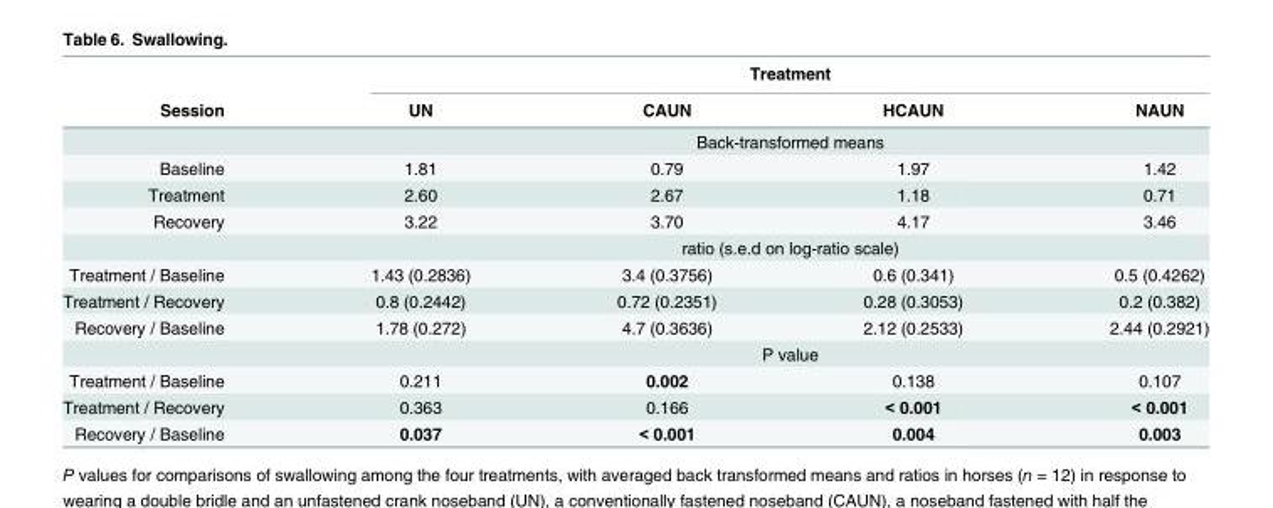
<table><thead><tr><td rowspan="2">Session</td><td colspan="4">Treatment</td></tr><tr><td>UN</td><td>CAUN</td><td>HCAUN</td><td>NAUN</td></tr></thead><tbody><tr><td></td><td colspan="4">Back-transformed means</td></tr><tr><td>Baseline</td><td>1.81</td><td>0.79</td><td>1.97</td><td>1.42</td></tr><tr><td>Treatment</td><td>2.60</td><td>2.67</td><td>1.18</td><td>0.71</td></tr><tr><td rowspan="2">Recovery</td><td>3.22</td><td>3.70</td><td>4.17</td><td>3.46</td></tr><tr><td colspan="4">ratio (s.e.d on log-ratio scale)</td></tr><tr><td>Treatment / Baseline</td><td>1.43 (0.2836)</td><td>3.4 (0.3756)</td><td>0.6 (0.341)</td><td>0.5 (0.4262)</td></tr><tr><td>Treatment / Recovery</td><td>0.8 (0.2442)</td><td>0.72 (0.2351)</td><td>0.28 (0.3053)</td><td>0.2 (0.382)</td></tr><tr><td rowspan="2">Recovery / Baseline</td><td>1.78 (0.272)</td><td>4.7 (0.3636)</td><td>2.12 (0.2533)</td><td>2.44 (0.2921)</td></tr><tr><td colspan="4">P value</td></tr><tr><td>Treatment / Baseline</td><td>0.211</td><td>0.002</td><td>0.138</td><td>0.107</td></tr><tr><td>Treatment / Recovery</td><td>0.363</td><td>0.166</td><td>&lt; 0.001</td><td>&lt; 0.001</td></tr><tr><td>Recovery / Baseline</td><td>0.037</td><td>&lt; 0.001</td><td>0.004</td><td>0.003</td></tr></tbody></table>